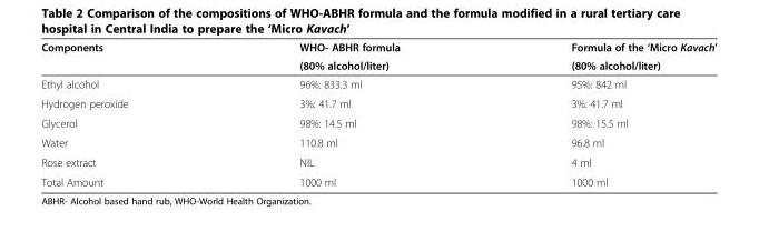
<table><thead><tr><td rowspan="2">Components</td><td rowspan="2">WHO- ABHR formula (80% alcohol/liter)</td><td rowspan="2">Formula of the ‘Micro Kavach’ (80% alcohol/liter)</td></tr><tr></tr></thead><tbody><tr><td>Ethyl alcohol</td><td>96%: 833.3 ml</td><td>95%: 842 ml</td></tr><tr><td>Hydrogen peroxide</td><td>3%: 41.7 ml</td><td>3%: 41.7 ml</td></tr><tr><td>Glycerol</td><td>98%: 14.5 ml</td><td>98%: 15.5 ml</td></tr><tr><td>Water</td><td>110.8 ml</td><td>96.8 ml</td></tr><tr><td>Rose extract</td><td>NIL</td><td>4 ml</td></tr><tr><td>Total Amount</td><td>1000 ml</td><td>1000 ml</td></tr></tbody></table>